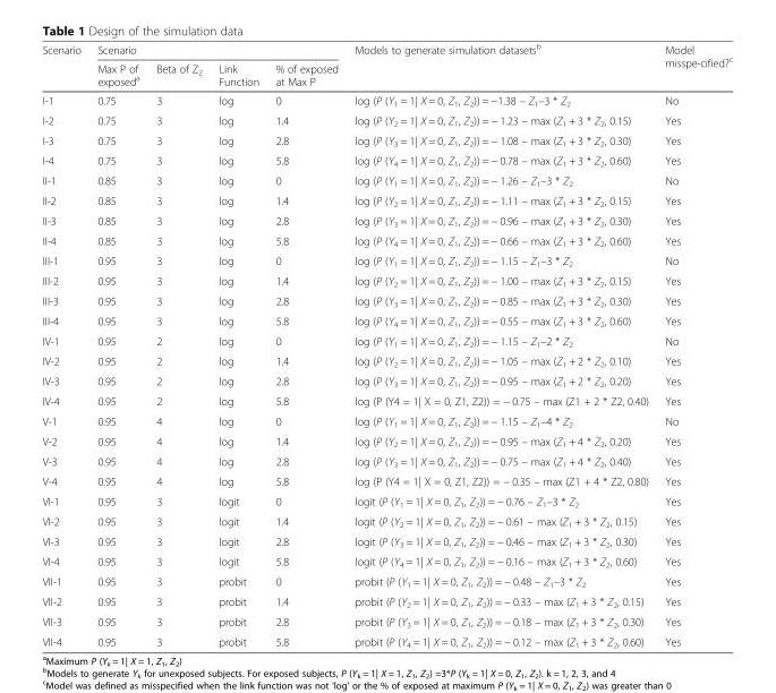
<table><thead><tr><td rowspan="2">Scenario</td><td colspan="4">Scenario</td><td rowspan="2">Models to generate simulation datasets<sup>b</sup></td><td rowspan="2">Model misspe-cified?<sup>c</sup></td></tr><tr><td>Max P of exposed<sup>a</sup></td><td>Beta of Z<sub>2</sub></td><td>Link Function</td><td>% of exposed at Max P</td></tr></thead><tbody><tr><td>I-1</td><td>0.75</td><td>3</td><td>log</td><td>0</td><td>log (P (Y<sub>1</sub> = 1| X = 0, Z<sub>1</sub>, Z<sub>2</sub>)) = −1.38 – Z<sub>1</sub>–3 * Z<sub>2</sub></td><td>No</td></tr><tr><td>I-2</td><td>0.75</td><td>3</td><td>log</td><td>1.4</td><td>log (P (Y<sub>2</sub> = 1| X = 0, Z<sub>1</sub>, Z<sub>2</sub>)) = − 1.23 – max (Z<sub>1</sub> + 3 * Z<sub>2</sub>, 0.15)</td><td>Yes</td></tr><tr><td>I-3</td><td>0.75</td><td>3</td><td>log</td><td>2.8</td><td>log (P (Y<sub>3</sub> = 1| X = 0, Z<sub>1</sub>, Z<sub>2</sub>)) = − 1.08 – max (Z<sub>1</sub> + 3 * Z<sub>2</sub>, 0.30)</td><td>Yes</td></tr><tr><td>I-4</td><td>0.75</td><td>3</td><td>log</td><td>5.8</td><td>log (P (Y<sub>4</sub> = 1| X = 0, Z<sub>1</sub>, Z<sub>2</sub>)) = − 0.78 – max (Z<sub>1</sub> + 3 * Z<sub>2</sub>, 0.60)</td><td>Yes</td></tr><tr><td>II-1</td><td>0.85</td><td>3</td><td>log</td><td>0</td><td>log (P (Y<sub>1</sub> = 1| X = 0, Z<sub>1</sub>, Z<sub>2</sub>)) = − 1.26 – Z<sub>1</sub>–3 * Z<sub>2</sub></td><td>No</td></tr><tr><td>II-2</td><td>0.85</td><td>3</td><td>log</td><td>1.4</td><td>log (P (Y<sub>2</sub> = 1| X = 0, Z<sub>1</sub>, Z<sub>2</sub>)) = − 1.11 – max (Z<sub>1</sub> + 3 * Z<sub>2</sub>, 0.15)</td><td>Yes</td></tr><tr><td>II-3</td><td>0.85</td><td>3</td><td>log</td><td>2.8</td><td>log (P (Y<sub>3</sub> = 1| X = 0, Z<sub>1</sub>, Z<sub>2</sub>)) = − 0.96 – max (Z<sub>1</sub> + 3 * Z<sub>2</sub>, 0.30)</td><td>Yes</td></tr><tr><td>II-4</td><td>0.85</td><td>3</td><td>log</td><td>5.8</td><td>log (P (Y<sub>4</sub> = 1| X = 0, Z<sub>1</sub>, Z<sub>2</sub>)) = − 0.66 – max (Z<sub>1</sub> + 3 * Z<sub>2</sub>, 0.60)</td><td>Yes</td></tr><tr><td>III-1</td><td>0.95</td><td>3</td><td>log</td><td>0</td><td>log (P (Y<sub>1</sub> = 1| X = 0, Z<sub>1</sub>, Z<sub>2</sub>)) = − 1.15 – Z<sub>1</sub>–3 * Z<sub>2</sub></td><td>No</td></tr><tr><td>III-2</td><td>0.95</td><td>3</td><td>log</td><td>1.4</td><td>log (P (Y<sub>2</sub> = 1| X = 0, Z<sub>1</sub>, Z<sub>2</sub>)) = − 1.00 – max (Z<sub>1</sub> + 3 * Z<sub>2</sub>, 0.15)</td><td>Yes</td></tr><tr><td>III-3</td><td>0.95</td><td>3</td><td>log</td><td>2.8</td><td>log (P (Y<sub>3</sub> = 1| X = 0, Z<sub>1</sub>, Z<sub>2</sub>)) = − 0.85 – max (Z<sub>1</sub> + 3 * Z<sub>2</sub>, 0.30)</td><td>Yes</td></tr><tr><td>III-4</td><td>0.95</td><td>3</td><td>log</td><td>5.8</td><td>log (P (Y<sub>4</sub> = 1| X = 0, Z<sub>1</sub>, Z<sub>2</sub>)) = − 0.55 – max (Z<sub>1</sub> + 3 * Z<sub>2</sub>, 0.60)</td><td>Yes</td></tr><tr><td>IV-1</td><td>0.95</td><td>2</td><td>log</td><td>0</td><td>log (P (Y<sub>1</sub> = 1| X = 0, Z<sub>1</sub>, Z<sub>2</sub>)) = − 1.15 – Z<sub>1</sub>–2 * Z<sub>2</sub></td><td>No</td></tr><tr><td>IV-2</td><td>0.95</td><td>2</td><td>log</td><td>1.4</td><td>log (P (Y<sub>2</sub> = 1| X = 0, Z<sub>1</sub>, Z<sub>2</sub>)) = − 1.05 – max (Z<sub>1</sub> + 2 * Z<sub>2</sub>, 0.10)</td><td>Yes</td></tr><tr><td>IV-3</td><td>0.95</td><td>2</td><td>log</td><td>2.8</td><td>log (P (Y<sub>3</sub> = 1| X = 0, Z<sub>1</sub>, Z<sub>2</sub>)) = − 0.95 – max (Z<sub>1</sub> + 2 * Z<sub>2</sub>, 0.20)</td><td>Yes</td></tr><tr><td>IV-4</td><td>0.95</td><td>2</td><td>log</td><td>5.8</td><td>log (P (Y4 = 1| X = 0, Z1, Z2)) = − 0.75 – max (Z1 + 2 * Z2, 0.40)</td><td>Yes</td></tr><tr><td>V-1</td><td>0.95</td><td>4</td><td>log</td><td>0</td><td>log (P (Y<sub>1</sub> = 1| X = 0, Z<sub>1</sub>, Z<sub>2</sub>)) = − 1.15 – Z<sub>1</sub>–4 * Z<sub>2</sub></td><td>No</td></tr><tr><td>V-2</td><td>0.95</td><td>4</td><td>log</td><td>1.4</td><td>log (P (Y<sub>2</sub> = 1| X = 0, Z<sub>1</sub>, Z<sub>2</sub>)) = − 0.95 – max (Z<sub>1</sub> + 4 * Z<sub>2</sub>, 0.20)</td><td>Yes</td></tr><tr><td>V-3</td><td>0.95</td><td>4</td><td>log</td><td>2.8</td><td>log (P (Y<sub>3</sub> = 1| X = 0, Z<sub>1</sub>, Z<sub>2</sub>)) = − 0.75 – max (Z<sub>1</sub> + 4 * Z<sub>2</sub>, 0.40)</td><td>Yes</td></tr><tr><td>V-4</td><td>0.95</td><td>4</td><td>log</td><td>5.8</td><td>log (P (Y4 = 1| X = 0, Z1, Z2)) = − 0.35 – max (Z1 + 4 * Z2, 0.80)</td><td>Yes</td></tr><tr><td>VI-1</td><td>0.95</td><td>3</td><td>logit</td><td>0</td><td>logit (P (Y<sub>1</sub> = 1| X = 0, Z<sub>1</sub>, Z<sub>2</sub>)) = − 0.76 – Z<sub>1</sub>–3 * Z<sub>2</sub></td><td>Yes</td></tr><tr><td>VI-2</td><td>0.95</td><td>3</td><td>logit</td><td>1.4</td><td>logit (P (Y<sub>2</sub> = 1| X = 0, Z<sub>1</sub>, Z<sub>2</sub>)) = − 0.61 – max (Z<sub>1</sub> + 3 * Z<sub>2</sub>, 0.15)</td><td>Yes</td></tr><tr><td>VI-3</td><td>0.95</td><td>3</td><td>logit</td><td>2.8</td><td>logit (P (Y<sub>3</sub> = 1| X = 0, Z<sub>1</sub>, Z<sub>2</sub>)) = − 0.46 – max (Z<sub>1</sub> + 3 * Z<sub>2</sub>, 0.30)</td><td>Yes</td></tr><tr><td>VI-4</td><td>0.95</td><td>3</td><td>logit</td><td>5.8</td><td>logit (P (Y<sub>4</sub> = 1| X = 0, Z<sub>1</sub>, Z<sub>2</sub>)) = − 0.16 – max (Z<sub>1</sub> + 3 * Z<sub>2</sub>, 0.60)</td><td>Yes</td></tr><tr><td>VII-1</td><td>0.95</td><td>3</td><td>probit</td><td>0</td><td>probit (P (Y<sub>1</sub> = 1| X = 0, Z<sub>1</sub>, Z<sub>2</sub>)) = − 0.48 – Z<sub>1</sub>–3 * Z<sub>2</sub></td><td>Yes</td></tr><tr><td>VII-2</td><td>0.95</td><td>3</td><td>probit</td><td>1.4</td><td>probit (P (Y<sub>2</sub> = 1| X = 0, Z<sub>1</sub>, Z<sub>2</sub>)) = − 0.33 – max (Z<sub>1</sub> + 3 * Z<sub>2</sub>, 0.15)</td><td>Yes</td></tr><tr><td>VII-3</td><td>0.95</td><td>3</td><td>probit</td><td>2.8</td><td>probit (P (Y<sub>3</sub> = 1| X = 0, Z<sub>1</sub>, Z<sub>2</sub>)) = − 0.18 – max (Z<sub>1</sub> + 3 * Z<sub>2</sub>, 0.30)</td><td>Yes</td></tr><tr><td>VII-4</td><td>0.95</td><td>3</td><td>probit</td><td>5.8</td><td>probit (P (Y<sub>4</sub> = 1| X = 0, Z<sub>1</sub>, Z<sub>2</sub>)) = − 0.12 – max (Z<sub>1</sub> + 3 * Z<sub>2</sub>, 0.60)</td><td>Yes</td></tr></tbody></table>